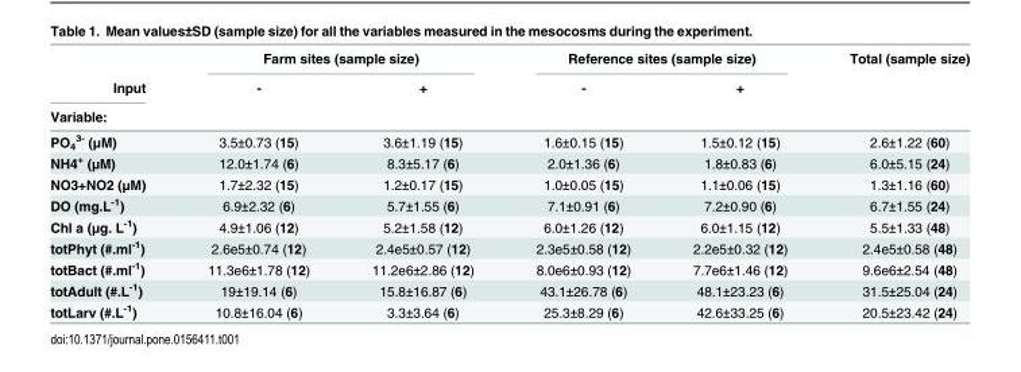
<table><thead><tr><td rowspan="3">Input Variable:</td><td colspan="2">Farm sites (sample size)</td><td colspan="2">Reference sites (sample size)</td><td rowspan="3">Total (sample size)</td></tr><tr><td rowspan="2">-</td><td rowspan="2">+</td><td rowspan="2">-</td><td rowspan="2">+</td></tr><tr></tr></thead><tbody><tr><td>PO<sub>4</sub> <sup>3-</sup> (μM)</td><td>3.5±0.73 (15)</td><td>3.6±1.19 (15)</td><td>1.6±0.15 (15)</td><td>1.5±0.12 (15)</td><td>2.6±1.22 (60)</td></tr><tr><td>NH4<sup>+</sup> (μM)</td><td>12.0±1.74 (6)</td><td>8.3±5.17 (6)</td><td>2.0±1.36 (6)</td><td>1.8±0.83 (6)</td><td>6.0±5.15 (24)</td></tr><tr><td>NO3+NO2 (μM)</td><td>1.7±2.32 (15)</td><td>1.2±0.17 (15)</td><td>1.0±0.05 (15)</td><td>1.1±0.06 (15)</td><td>1.3±1.16 (60)</td></tr><tr><td>DO (mg.L<sup>-1</sup>)</td><td>6.9±2.32 (6)</td><td>5.7±1.55 (6)</td><td>7.1±0.91 (6)</td><td>7.2±0.90 (6)</td><td>6.7±1.55 (24)</td></tr><tr><td>Chl a (μg. L<sup>-1</sup>)</td><td>4.9±1.06 (12)</td><td>5.2±1.58 (12)</td><td>6.0±1.26 (12)</td><td>6.0±1.15 (12)</td><td>5.5±1.33 (48)</td></tr><tr><td>totPhyt (#.ml<sup>-1</sup>)</td><td>2.6e5±0.74 (12)</td><td>2.4e5±0.57 (12)</td><td>2.3e5±0.58 (12)</td><td>2.2e5±0.32 (12)</td><td>2.4e5±0.58 (48)</td></tr><tr><td>totBact (#.ml<sup>-1</sup>)</td><td>11.3e6±1.78 (12)</td><td>11.2e6±2.86 (12)</td><td>8.0e6±0.93 (12)</td><td>7.7e6±1.46 (12)</td><td>9.6e6±2.54 (48)</td></tr><tr><td>totAdult (#.L<sup>-1</sup>)</td><td>19±19.14 (6)</td><td>15.8±16.87 (6)</td><td>43.1±26.78 (6)</td><td>48.1±23.23 (6)</td><td>31.5±25.04 (24)</td></tr><tr><td>totLarv (#.L<sup>-1</sup>)</td><td>10.8±16.04 (6)</td><td>3.3±3.64 (6)</td><td>25.3±8.29 (6)</td><td>42.6±33.25 (6)</td><td>20.5±23.42 (24)</td></tr></tbody></table>